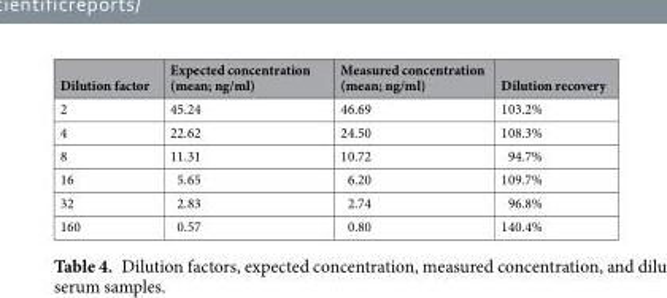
<table><thead><tr><td>Dilution factor</td><td>Expected concentration (mean; ng/ml)</td><td>Measured concentration (mean; ng/ml)</td><td>Dilution recovery</td></tr></thead><tbody><tr><td>2</td><td>45.24</td><td>46.69</td><td>103.2%</td></tr><tr><td>4</td><td>22.62</td><td>24.50</td><td>108.3%</td></tr><tr><td>8</td><td>11.31</td><td>10.72</td><td>94.7%</td></tr><tr><td>16</td><td>5.65</td><td>6.20</td><td>109.7%</td></tr><tr><td>32</td><td>2.83</td><td>2.74</td><td>96.8%</td></tr><tr><td>160</td><td>0.57</td><td>0.80</td><td>140.4%</td></tr></tbody></table>